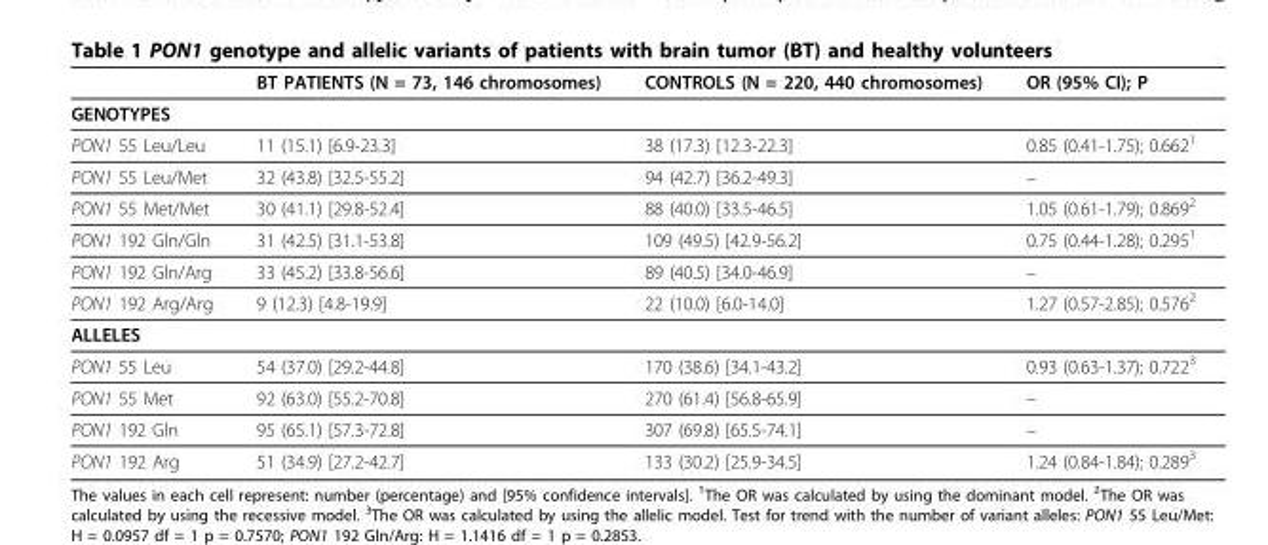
<table><thead><tr><td></td><td>BT PATIENTS (N = 73, 146 chromosomes)</td><td>CONTROLS (N = 220, 440 chromosomes)</td><td>OR (95% CI); P</td></tr></thead><tbody><tr><td colspan="4">GENOTYPES</td></tr><tr><td>PON1 55 Leu/Leu</td><td>11 (15.1) [6.9-23.3]</td><td>38 (17.3) [12.3-22.3]</td><td>0.85 (0.41-1.75); 0.6621</td></tr><tr><td>PON1 55 Leu/Met</td><td>32 (43.8) [32.5-55.2]</td><td>94 (42.7) [36.2-49.3]</td><td>–</td></tr><tr><td>PON1 55 Met/Met</td><td>30 (41.1) [29.8-52.4]</td><td>88 (40.0) [33.5-46.5]</td><td>1.05 (0.61-1.79); 0.8692</td></tr><tr><td>PON1 192 Gln/Gln</td><td>31 (42.5) [31.1-53.8]</td><td>109 (49.5) [42.9-56.2]</td><td>0.75 (0.44-1.28); 0.2951</td></tr><tr><td>PON1 192 Gln/Arg</td><td>33 (45.2) [33.8-56.6]</td><td>89 (40.5) [34.0-46.9]</td><td>–</td></tr><tr><td>PON1 192 Arg/Arg</td><td>9 (12.3) [4.8-19.9]</td><td>22 (10.0) [6.0-14.0]</td><td>1.27 (0.57-2.85); 0.5762</td></tr><tr><td colspan="4">ALLELES</td></tr><tr><td>PON1 55 Leu</td><td>54 (37.0) [29.2-44.8]</td><td>170 (38.6) [34.1-43.2]</td><td>0.93 (0.63-1.37); 0.7223</td></tr><tr><td>PON1 55 Met</td><td>92 (63.0) [55.2-70.8]</td><td>270 (61.4) [56.8-65.9]</td><td>–</td></tr><tr><td>PON1 192 Gln</td><td>95 (65.1) [57.3-72.8]</td><td>307 (69.8) [65.5-74.1]</td><td>–</td></tr><tr><td>PON1 192 Arg</td><td>51 (34.9) [27.2-42.7]</td><td>133 (30.2) [25.9-34.5]</td><td>1.24 (0.84-1.84); 0.2893</td></tr></tbody></table>